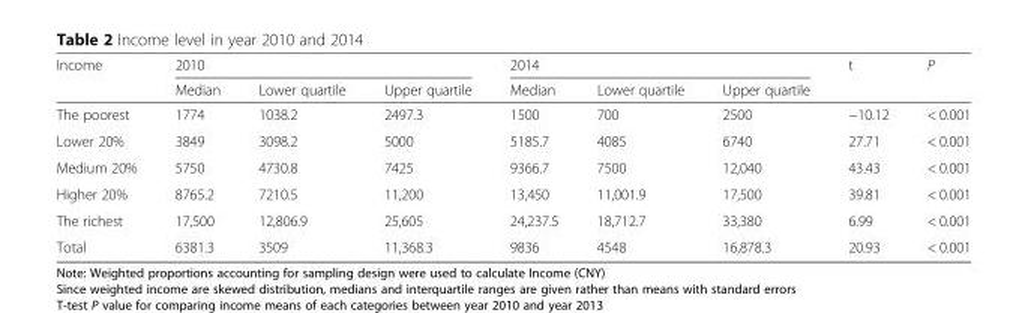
<table><thead><tr><td rowspan="2">Income</td><td colspan="3">2010</td><td colspan="3">2014</td><td rowspan="2">t</td><td rowspan="2">P</td></tr><tr><td>Median</td><td>Lower quartile</td><td>Upper quartile</td><td>Median</td><td>Lower quartile</td><td>Upper quartile</td></tr></thead><tbody><tr><td>The poorest</td><td>1774</td><td>1038.2</td><td>2497.3</td><td>1500</td><td>700</td><td>2500</td><td>−10.12</td><td>&lt; 0.001</td></tr><tr><td>Lower 20%</td><td>3849</td><td>3098.2</td><td>5000</td><td>5185.7</td><td>4085</td><td>6740</td><td>27.71</td><td>&lt; 0.001</td></tr><tr><td>Medium 20%</td><td>5750</td><td>4730.8</td><td>7425</td><td>9366.7</td><td>7500</td><td>12,040</td><td>43.43</td><td>&lt; 0.001</td></tr><tr><td>Higher 20%</td><td>8765.2</td><td>7210.5</td><td>11,200</td><td>13,450</td><td>11,001.9</td><td>17,500</td><td>39.81</td><td>&lt; 0.001</td></tr><tr><td>The richest</td><td>17,500</td><td>12,806.9</td><td>25,605</td><td>24,237.5</td><td>18,712.7</td><td>33,380</td><td>6.99</td><td>&lt; 0.001</td></tr><tr><td>Total</td><td>6381.3</td><td>3509</td><td>11,368.3</td><td>9836</td><td>4548</td><td>16,878.3</td><td>20.93</td><td>&lt; 0.001</td></tr></tbody></table>